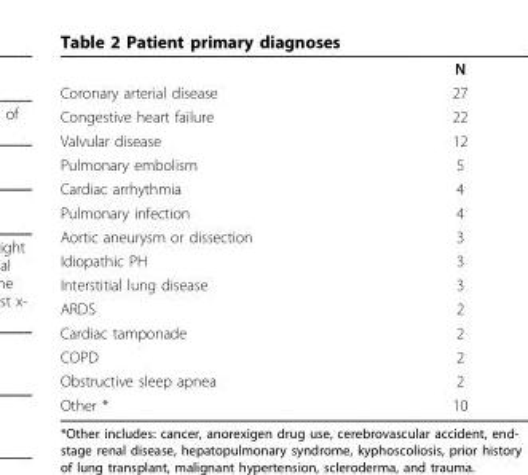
<table><thead><tr><td></td><td>N</td></tr></thead><tbody><tr><td>Coronary arterial disease</td><td>27</td></tr><tr><td>Congestive heart failure</td><td>22</td></tr><tr><td>Valvular disease</td><td>12</td></tr><tr><td>Pulmonary embolism</td><td>5</td></tr><tr><td>Cardiac arrhythmia</td><td>4</td></tr><tr><td>Pulmonary infection</td><td>4</td></tr><tr><td>Aortic aneurysm or dissection</td><td>3</td></tr><tr><td>Idiopathic PH</td><td>3</td></tr><tr><td>Interstitial lung disease</td><td>3</td></tr><tr><td>ARDS</td><td>2</td></tr><tr><td>Cardiac tamponade</td><td>2</td></tr><tr><td>COPD</td><td>2</td></tr><tr><td>Obstructive sleep apnea</td><td>2</td></tr><tr><td>Other *</td><td>10</td></tr></tbody></table>